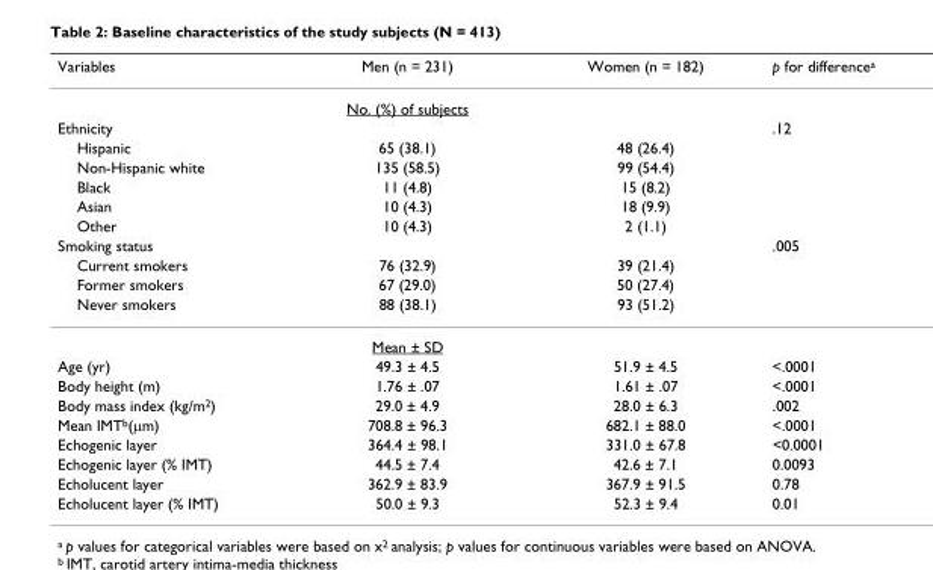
<table><thead><tr><td>Variables</td><td>Men (n = 231)</td><td>Women (n = 182)</td><td>p for difference<sup>a</sup></td></tr></thead><tbody><tr><td></td><td>No. (%) of subjects</td><td></td><td></td></tr><tr><td>Ethnicity</td><td></td><td></td><td>.12</td></tr><tr><td>Hispanic</td><td>65 (38.1)</td><td>48 (26.4)</td><td></td></tr><tr><td>Non-Hispanic white</td><td>135 (58.5)</td><td>99 (54.4)</td><td></td></tr><tr><td>Black</td><td>11 (4.8)</td><td>15 (8.2)</td><td></td></tr><tr><td>Asian</td><td>10 (4.3)</td><td>18 (9.9)</td><td></td></tr><tr><td>Other</td><td>10 (4.3)</td><td>2 (1.1)</td><td></td></tr><tr><td>Smoking status</td><td></td><td></td><td>.005</td></tr><tr><td>Current smokers</td><td>76 (32.9)</td><td>39 (21.4)</td><td></td></tr><tr><td>Former smokers</td><td>67 (29.0)</td><td>50 (27.4)</td><td></td></tr><tr><td rowspan="2">Never smokers</td><td>88 (38.1)</td><td>93 (51.2)</td><td></td></tr><tr><td>Mean ± SD</td><td></td><td></td></tr><tr><td>Age (yr)</td><td>49.3 ± 4.5</td><td>51.9 ± 4.5</td><td>&lt;.0001</td></tr><tr><td>Body height (m)</td><td>1.76 ± .07</td><td>1.61 ± .07</td><td>&lt;.0001</td></tr><tr><td>Body mass index (kg/m<sup>2</sup>)</td><td>29.0 ± 4.9</td><td>28.0 ± 6.3</td><td>.002</td></tr><tr><td>Mean IMT<sup>b</sup>(µm)</td><td>708.8 ± 96.3</td><td>682.1 ± 88.0</td><td>&lt;.0001</td></tr><tr><td>Echogenic layer</td><td>364.4 ± 98.1</td><td>331.0 ± 67.8</td><td>&lt;0.0001</td></tr><tr><td>Echogenic layer (% IMT)</td><td>44.5 ± 7.4</td><td>42.6 ± 7.1</td><td>0.0093</td></tr><tr><td>Echolucent layer</td><td>362.9 ± 83.9</td><td>367.9 ± 91.5</td><td>0.78</td></tr><tr><td>Echolucent layer (% IMT)</td><td>50.0 ± 9.3</td><td>52.3 ± 9.4</td><td>0.01</td></tr></tbody></table>